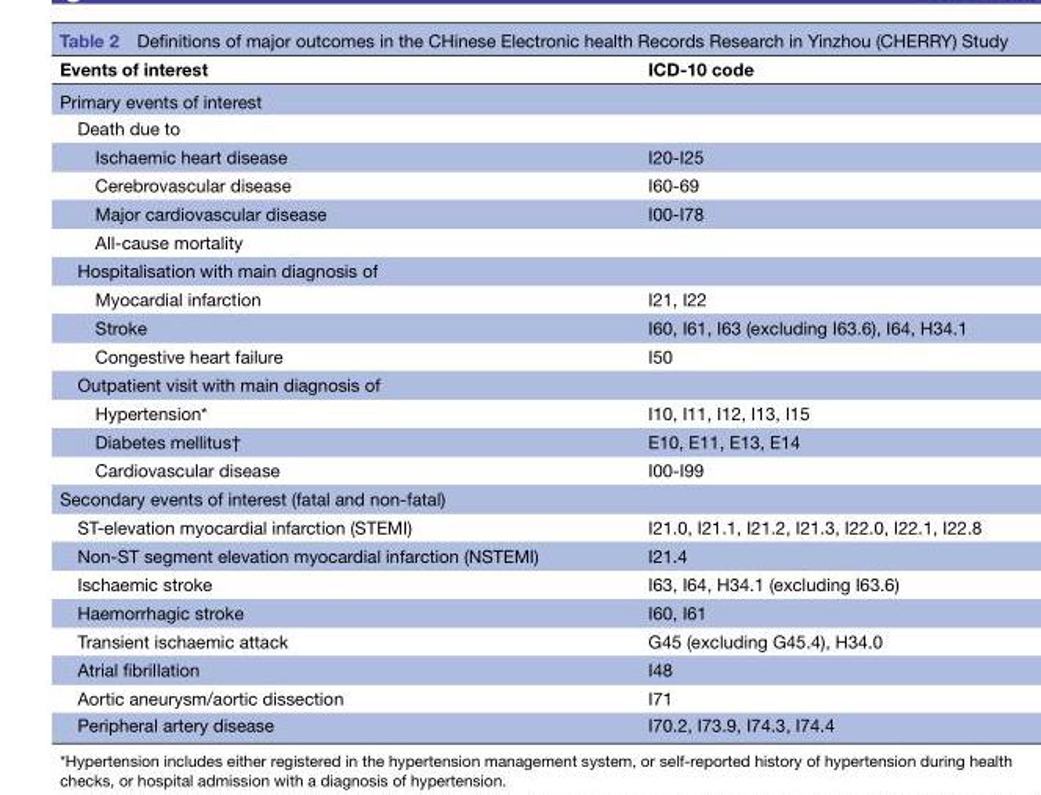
<table><thead><tr><td>Events of interest</td><td>ICD-10 code</td></tr></thead><tbody><tr><td colspan="2">Primary events of interest</td></tr><tr><td colspan="2">Death due to</td></tr><tr><td>Ischaemic heart disease</td><td>I20-I25</td></tr><tr><td>Cerebrovascular disease</td><td>I60-69</td></tr><tr><td>Major cardiovascular disease</td><td>I00-I78</td></tr><tr><td colspan="2">All-cause mortality</td></tr><tr><td colspan="2">Hospitalisation with main diagnosis of</td></tr><tr><td>Myocardial infarction</td><td>I21, I22</td></tr><tr><td>Stroke</td><td>I60, I61, I63 (excluding I63.6), I64, H34.1</td></tr><tr><td>Congestive heart failure</td><td>I50</td></tr><tr><td colspan="2">Outpatient visit with main diagnosis of</td></tr><tr><td>Hypertension*</td><td>I10, I11, I12, I13, I15</td></tr><tr><td>Diabetes mellitus†</td><td>E10, E11, E13, E14</td></tr><tr><td>Cardiovascular disease</td><td>I00-I99</td></tr><tr><td colspan="2">Secondary events of interest (fatal and non-fatal)</td></tr><tr><td>ST-elevation myocardial infarction (STEMI)</td><td>I21.0, I21.1, I21.2, I21.3, I22.0, I22.1, I22.8</td></tr><tr><td>Non-ST segment elevation myocardial infarction (NSTEMI)</td><td>I21.4</td></tr><tr><td>Ischaemic stroke</td><td>I63, I64, H34.1 (excluding I63.6)</td></tr><tr><td>Haemorrhagic stroke</td><td>I60, I61</td></tr><tr><td>Transient ischaemic attack</td><td>G45 (excluding G45.4), H34.0</td></tr><tr><td>Atrial fibrillation</td><td>I48</td></tr><tr><td>Aortic aneurysm/aortic dissection</td><td>I71</td></tr><tr><td>Peripheral artery disease</td><td>I70.2, I73.9, I74.3, I74.4</td></tr></tbody></table>